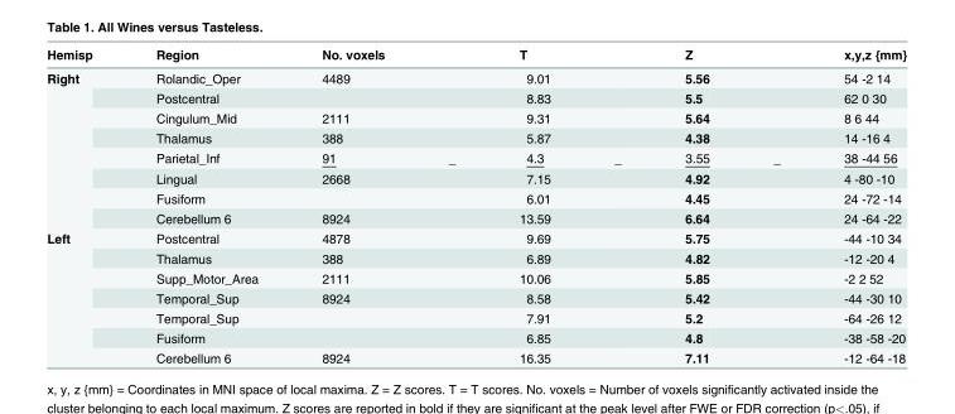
<table><thead><tr><td>Hemisp</td><td>Region</td><td>No. voxels</td><td></td><td>T</td><td></td><td>Z</td><td></td><td>x,y,z {mm}</td></tr></thead><tbody><tr><td rowspan="8">Right</td><td>Rolandic_Oper</td><td>4489</td><td></td><td>9.01</td><td></td><td>5.56</td><td></td><td>54 -2 14</td></tr><tr><td>Postcentral</td><td></td><td></td><td>8.83</td><td></td><td>5.5</td><td></td><td>62 0 30</td></tr><tr><td>Cingulum_Mid</td><td>2111</td><td></td><td>9.31</td><td></td><td>5.64</td><td></td><td>8 6 44</td></tr><tr><td>Thalamus</td><td>388</td><td></td><td>5.87</td><td></td><td>4.38</td><td></td><td>14 -16 4</td></tr><tr><td>Parietal_Inf</td><td>91</td><td>_</td><td>4.3</td><td>_</td><td>3.55</td><td>_</td><td>38 -44 56</td></tr><tr><td>Lingual</td><td>2668</td><td></td><td>7.15</td><td></td><td>4.92</td><td></td><td>4 -80 -10</td></tr><tr><td>Fusiform</td><td></td><td></td><td>6.01</td><td></td><td>4.45</td><td></td><td>24 -72 -14</td></tr><tr><td>Cerebellum 6</td><td>8924</td><td></td><td>13.59</td><td></td><td>6.64</td><td></td><td>24 -64 -22</td></tr><tr><td rowspan="7">Left</td><td>Postcentral</td><td>4878</td><td></td><td>9.69</td><td></td><td>5.75</td><td></td><td>-44 -10 34</td></tr><tr><td>Thalamus</td><td>388</td><td></td><td>6.89</td><td></td><td>4.82</td><td></td><td>-12 -20 4</td></tr><tr><td>Supp_Motor_Area</td><td>2111</td><td></td><td>10.06</td><td></td><td>5.85</td><td></td><td>-2 2 52</td></tr><tr><td>Temporal_Sup</td><td>8924</td><td></td><td>8.58</td><td></td><td>5.42</td><td></td><td>-44 -30 10</td></tr><tr><td>Temporal_Sup</td><td></td><td></td><td>7.91</td><td></td><td>5.2</td><td></td><td>-64 -26 12</td></tr><tr><td>Fusiform</td><td></td><td></td><td>6.85</td><td></td><td>4.8</td><td></td><td>-38 -58 -20</td></tr><tr><td>Cerebellum 6</td><td>8924</td><td></td><td>16.35</td><td></td><td>7.11</td><td></td><td>-12 -64 -18</td></tr></tbody></table>